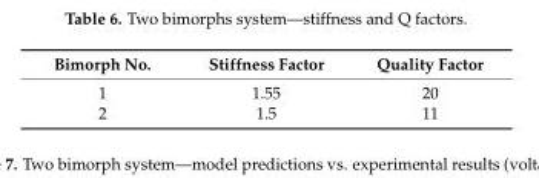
<table><thead><tr><td>Bimorph No.</td><td>Stiffness Factor</td><td>Quality Factor</td></tr></thead><tbody><tr><td>1</td><td>1.55</td><td>20</td></tr><tr><td>2</td><td>1.5</td><td>11</td></tr></tbody></table>